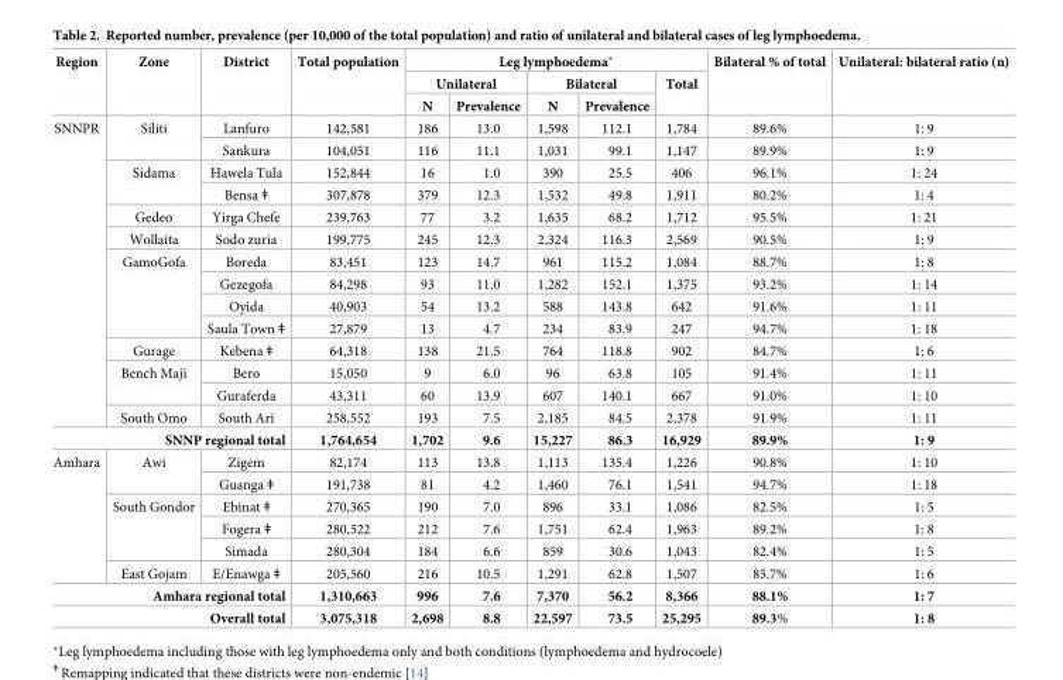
<table><thead><tr><td rowspan="3">Region</td><td rowspan="3">Zone</td><td rowspan="3">District</td><td rowspan="3">Total population</td><td colspan="5">Leg lymphoedema*</td><td rowspan="3">Bilateral % of total</td><td rowspan="3">Unilateral: bilateral ratio (n)</td></tr><tr><td colspan="2">Unilateral</td><td colspan="2">Bilateral</td><td rowspan="2">Total</td></tr><tr><td>N</td><td>Prevalence</td><td>N</td><td>Prevalence</td></tr></thead><tbody><tr><td rowspan="14">SNNPR</td><td rowspan="2">Siliti</td><td>Lanfuro</td><td>142,581</td><td>186</td><td>13.0</td><td>1,598</td><td>112.1</td><td>1,784</td><td>89.6%</td><td>1: 9</td></tr><tr><td>Sankura</td><td>104,051</td><td>116</td><td>11.1</td><td>1,031</td><td>99.1</td><td>1,147</td><td>89.9%</td><td>1: 9</td></tr><tr><td rowspan="2">Sidama</td><td>Hawela Tula</td><td>152,844</td><td>16</td><td>1.0</td><td>390</td><td>25.5</td><td>406</td><td>96.1%</td><td>1: 24</td></tr><tr><td>Bensa ǂ</td><td>307,878</td><td>379</td><td>12.3</td><td>1,532</td><td>49.8</td><td>1,911</td><td>80.2%</td><td>1: 4</td></tr><tr><td>Gedeo</td><td>Yirga Chefe</td><td>239,763</td><td>77</td><td>3.2</td><td>1,635</td><td>68.2</td><td>1,712</td><td>95.5%</td><td>1: 21</td></tr><tr><td>Wollaita</td><td>Sodo zuria</td><td>199,775</td><td>245</td><td>12.3</td><td>2,324</td><td>116.3</td><td>2,569</td><td>90.5%</td><td>1: 9</td></tr><tr><td rowspan="4">GamoGofa</td><td>Boreda</td><td>83,451</td><td>123</td><td>14.7</td><td>961</td><td>115.2</td><td>1,084</td><td>88.7%</td><td>1: 8</td></tr><tr><td>Gezegofa</td><td>84,298</td><td>93</td><td>11.0</td><td>1,282</td><td>152.1</td><td>1,375</td><td>93.2%</td><td>1: 14</td></tr><tr><td>Oyida</td><td>40,903</td><td>54</td><td>13.2</td><td>588</td><td>143.8</td><td>642</td><td>91.6%</td><td>1: 11</td></tr><tr><td>Saula Town ǂ</td><td>27,879</td><td>13</td><td>4.7</td><td>234</td><td>83.9</td><td>247</td><td>94.7%</td><td>1: 18</td></tr><tr><td>Gurage</td><td>Kebena ǂ</td><td>64,318</td><td>138</td><td>21.5</td><td>764</td><td>118.8</td><td>902</td><td>84.7%</td><td>1: 6</td></tr><tr><td rowspan="2">Bench Maji</td><td>Bero</td><td>15,050</td><td>9</td><td>6.0</td><td>96</td><td>63.8</td><td>105</td><td>91.4%</td><td>1: 11</td></tr><tr><td>Guraferda</td><td>43,311</td><td>60</td><td>13.9</td><td>607</td><td>140.1</td><td>667</td><td>91.0%</td><td>1: 10</td></tr><tr><td>South Omo</td><td>South Ari</td><td>258,552</td><td>193</td><td>7.5</td><td>2,185</td><td>84.5</td><td>2,378</td><td>91.9%</td><td>1: 11</td></tr><tr><td colspan="3">SNNP regional total</td><td>1,764,654</td><td>1,702</td><td>9.6</td><td>15,227</td><td>86.3</td><td>16,929</td><td>89.9%</td><td>1: 9</td></tr><tr><td rowspan="6">Amhara</td><td rowspan="2">Awi</td><td>Zigem</td><td>82,174</td><td>113</td><td>13.8</td><td>1,113</td><td>135.4</td><td>1,226</td><td>90.8%</td><td>1: 10</td></tr><tr><td>Guanga ǂ</td><td>191,738</td><td>81</td><td>4.2</td><td>1,460</td><td>76.1</td><td>1,541</td><td>94.7%</td><td>1: 18</td></tr><tr><td rowspan="3">South Gondor</td><td>Ebinat ǂ</td><td>270,365</td><td>190</td><td>7.0</td><td>896</td><td>33.1</td><td>1,086</td><td>82.5%</td><td>1: 5</td></tr><tr><td>Fogera ǂ</td><td>280,522</td><td>212</td><td>7.6</td><td>1,751</td><td>62.4</td><td>1,963</td><td>89.2%</td><td>1: 8</td></tr><tr><td>Simada</td><td>280,304</td><td>184</td><td>6.6</td><td>859</td><td>30.6</td><td>1,043</td><td>82.4%</td><td>1: 5</td></tr><tr><td>East Gojam</td><td>E/Enawga ǂ</td><td>205,560</td><td>216</td><td>10.5</td><td>1,291</td><td>62.8</td><td>1,507</td><td>85.7%</td><td>1: 6</td></tr><tr><td colspan="3">Amhara regional total</td><td>1,310,663</td><td>996</td><td>7.6</td><td>7,370</td><td>56.2</td><td>8,366</td><td>88.1%</td><td>1: 7</td></tr><tr><td colspan="3">Overall total</td><td>3,075,318</td><td>2,698</td><td>8.8</td><td>22,597</td><td>73.5</td><td>25,295</td><td>89.3%</td><td>1: 8</td></tr></tbody></table>